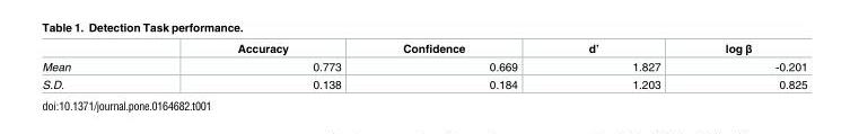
<table><thead><tr><td></td><td>Accuracy</td><td>Confidence</td><td>d’</td><td>log β</td></tr></thead><tbody><tr><td>Mean</td><td>0.773</td><td>0.669</td><td>1.827</td><td>-0.201</td></tr><tr><td>S.D.</td><td>0.138</td><td>0.184</td><td>1.203</td><td>0.825</td></tr></tbody></table>